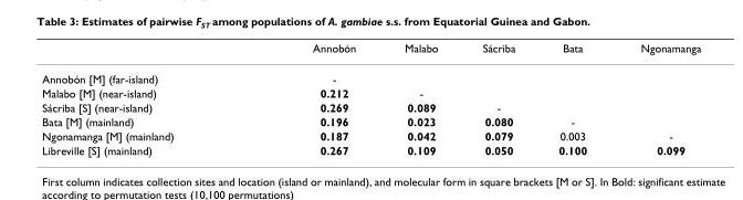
<table><thead><tr><td></td><td>Annobón</td><td>Malabo</td><td>Sácriba</td><td>Bata</td><td>Ngonamanga</td></tr></thead><tbody><tr><td>Annobón [M] (far-island)</td><td>-</td><td></td><td></td><td></td><td></td></tr><tr><td>Malabo [M] (near-island)</td><td>0.212</td><td>-</td><td></td><td></td><td></td></tr><tr><td>Sácriba [S] (near-island)</td><td>0.269</td><td>0.089</td><td>-</td><td></td><td></td></tr><tr><td>Bata [M] (mainland)</td><td>0.196</td><td>0.023</td><td>0.080</td><td>-</td><td></td></tr><tr><td>Ngonamanga [M] (mainland)</td><td>0.187</td><td>0.042</td><td>0.079</td><td>0.003</td><td>-</td></tr><tr><td>Libreville [S] (mainland)</td><td>0.267</td><td>0.109</td><td>0.050</td><td>0.100</td><td>0.099</td></tr></tbody></table>